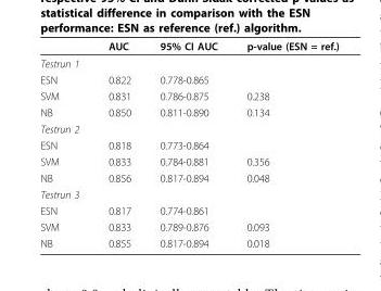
<table><thead><tr><td></td><td>AUC</td><td>95% CI AUC</td><td>p-value (ESN = ref.)</td></tr></thead><tbody><tr><td colspan="4">Testrun 1</td></tr><tr><td>ESN</td><td>0.822</td><td>0.778-0.865</td><td></td></tr><tr><td>SVM</td><td>0.831</td><td>0.786-0.875</td><td>0.238</td></tr><tr><td>NB</td><td>0.850</td><td>0.811-0.890</td><td>0.134</td></tr><tr><td colspan="4">Testrun 2</td></tr><tr><td>ESN</td><td>0.818</td><td>0.773-0.864</td><td></td></tr><tr><td>SVM</td><td>0.833</td><td>0.784-0.881</td><td>0.356</td></tr><tr><td>NB</td><td>0.856</td><td>0.817-0.894</td><td>0.048</td></tr><tr><td colspan="4">Testrun 3</td></tr><tr><td>ESN</td><td>0.817</td><td>0.774-0.861</td><td></td></tr><tr><td>SVM</td><td>0.833</td><td>0.789-0.876</td><td>0.093</td></tr><tr><td>NB</td><td>0.855</td><td>0.817-0.894</td><td>0.018</td></tr></tbody></table>